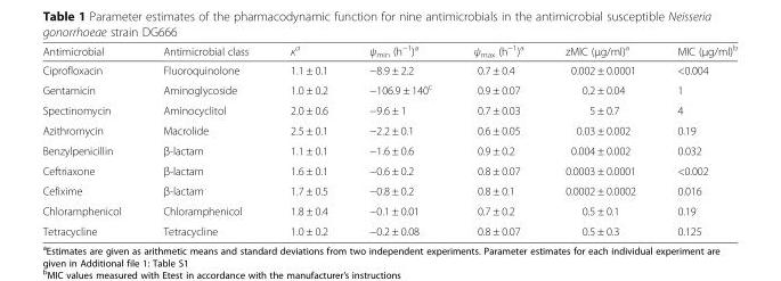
<table><thead><tr><td>Antimicrobial</td><td>Antimicrobial class</td><td>к<sup>a</sup></td><td>ψ<sub>min</sub> (h<sup>−1</sup>)<sup>a</sup></td><td>ψ<sub>max</sub> (h<sup>−1</sup>)<sup>a</sup></td><td>zMIC (μg/ml)<sup>a</sup></td><td>MIC (μg/ml)<sup>b</sup></td></tr></thead><tbody><tr><td>Ciprofloxacin</td><td>Fluoroquinolone</td><td>1.1 ± 0.1</td><td>−8.9 ± 2.2</td><td>0.7 ± 0.4</td><td>0.002 ± 0.0001</td><td>&lt;0.004</td></tr><tr><td>Gentamicin</td><td>Aminoglycoside</td><td>1.0 ± 0.2</td><td>−106.9 ± 140<sup>c</sup></td><td>0.9 ± 0.07</td><td>0.2 ± 0.04</td><td>1</td></tr><tr><td>Spectinomycin</td><td>Aminocyclitol</td><td>2.0 ± 0.6</td><td>−9.6 ± 1</td><td>0.7 ± 0.03</td><td>5 ± 0.7</td><td>4</td></tr><tr><td>Azithromycin</td><td>Macrolide</td><td>2.5 ± 0.1</td><td>−2.2 ± 0.1</td><td>0.6 ± 0.05</td><td>0.03 ± 0.002</td><td>0.19</td></tr><tr><td>Benzylpenicillin</td><td>β-lactam</td><td>1.1 ± 0.1</td><td>−1.6 ± 0.6</td><td>0.9 ± 0.2</td><td>0.004 ± 0.002</td><td>0.032</td></tr><tr><td>Ceftriaxone</td><td>β-lactam</td><td>1.6 ± 0.1</td><td>−0.6 ± 0.2</td><td>0.8 ± 0.07</td><td>0.0003 ± 0.0001</td><td>&lt;0.002</td></tr><tr><td>Cefixime</td><td>β-lactam</td><td>1.7 ± 0.5</td><td>−0.8 ± 0.2</td><td>0.8 ± 0.1</td><td>0.0002 ± 0.0002</td><td>0.016</td></tr><tr><td>Chloramphenicol</td><td>Chloramphenicol</td><td>1.8 ± 0.4</td><td>−0.1 ± 0.01</td><td>0.7 ± 0.2</td><td>0.5 ± 0.1</td><td>0.19</td></tr><tr><td>Tetracycline</td><td>Tetracycline</td><td>1.0 ± 0.2</td><td>−0.2 ± 0.08</td><td>0.8 ± 0.07</td><td>0.5 ± 0.3</td><td>0.125</td></tr></tbody></table>